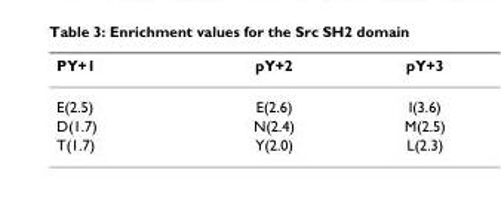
<table><thead><tr><td>PY+1</td><td>pY+2</td><td>pY+3</td></tr></thead><tbody><tr><td>E(2.5)</td><td>E(2.6)</td><td>I(3.6)</td></tr><tr><td>D(1.7)</td><td>N(2.4)</td><td>M(2.5)</td></tr><tr><td>T(1.7)</td><td>Y(2.0)</td><td>L(2.3)</td></tr></tbody></table>